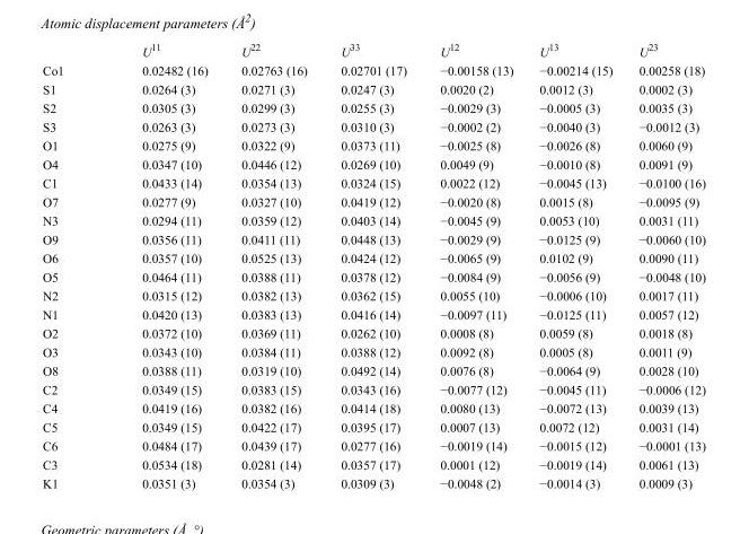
<table><thead><tr><td></td><td>U<sup>11</sup></td><td>U<sup>22</sup></td><td>U<sup>33</sup></td><td>U<sup>12</sup></td><td>U<sup>13</sup></td><td>U<sup>23</sup></td></tr></thead><tbody><tr><td>Co1</td><td>0.02482 (16)</td><td>0.02763 (16)</td><td>0.02701 (17)</td><td>−0.00158 (13)</td><td>−0.00214 (15)</td><td>0.00258 (18)</td></tr><tr><td>S1</td><td>0.0264 (3)</td><td>0.0271 (3)</td><td>0.0247 (3)</td><td>0.0020 (2)</td><td>0.0012 (3)</td><td>0.0002 (3)</td></tr><tr><td>S2</td><td>0.0305 (3)</td><td>0.0299 (3)</td><td>0.0255 (3)</td><td>−0.0029 (3)</td><td>−0.0005 (3)</td><td>0.0035 (3)</td></tr><tr><td>S3</td><td>0.0263 (3)</td><td>0.0273 (3)</td><td>0.0310 (3)</td><td>−0.0002 (2)</td><td>−0.0040 (3)</td><td>−0.0012 (3)</td></tr><tr><td>O1</td><td>0.0275 (9)</td><td>0.0322 (9)</td><td>0.0373 (11)</td><td>−0.0025 (8)</td><td>−0.0026 (8)</td><td>0.0060 (9)</td></tr><tr><td>O4</td><td>0.0347 (10)</td><td>0.0446 (12)</td><td>0.0269 (10)</td><td>0.0049 (9)</td><td>−0.0010 (8)</td><td>0.0091 (9)</td></tr><tr><td>C1</td><td>0.0433 (14)</td><td>0.0354 (13)</td><td>0.0324 (15)</td><td>0.0022 (12)</td><td>−0.0045 (13)</td><td>−0.0100 (16)</td></tr><tr><td>O7</td><td>0.0277 (9)</td><td>0.0327 (10)</td><td>0.0419 (12)</td><td>−0.0020 (8)</td><td>0.0015 (8)</td><td>−0.0095 (9)</td></tr><tr><td>N3</td><td>0.0294 (11)</td><td>0.0359 (12)</td><td>0.0403 (14)</td><td>−0.0045 (9)</td><td>0.0053 (10)</td><td>0.0031 (11)</td></tr><tr><td>O9</td><td>0.0356 (11)</td><td>0.0411 (11)</td><td>0.0448 (13)</td><td>−0.0029 (9)</td><td>−0.0125 (9)</td><td>−0.0060 (10)</td></tr><tr><td>O6</td><td>0.0357 (10)</td><td>0.0525 (13)</td><td>0.0424 (12)</td><td>−0.0065 (9)</td><td>0.0102 (9)</td><td>0.0090 (11)</td></tr><tr><td>O5</td><td>0.0464 (11)</td><td>0.0388 (11)</td><td>0.0378 (12)</td><td>−0.0084 (9)</td><td>−0.0056 (9)</td><td>−0.0048 (10)</td></tr><tr><td>N2</td><td>0.0315 (12)</td><td>0.0382 (13)</td><td>0.0362 (15)</td><td>0.0055 (10)</td><td>−0.0006 (10)</td><td>0.0017 (11)</td></tr><tr><td>N1</td><td>0.0420 (13)</td><td>0.0383 (13)</td><td>0.0416 (14)</td><td>−0.0097 (11)</td><td>−0.0125 (11)</td><td>0.0057 (12)</td></tr><tr><td>O2</td><td>0.0372 (10)</td><td>0.0369 (11)</td><td>0.0262 (10)</td><td>0.0008 (8)</td><td>0.0059 (8)</td><td>0.0018 (8)</td></tr><tr><td>O3</td><td>0.0343 (10)</td><td>0.0384 (11)</td><td>0.0388 (12)</td><td>0.0092 (8)</td><td>0.0005 (8)</td><td>0.0011 (9)</td></tr><tr><td>O8</td><td>0.0388 (11)</td><td>0.0319 (10)</td><td>0.0492 (14)</td><td>0.0076 (8)</td><td>−0.0064 (9)</td><td>0.0028 (10)</td></tr><tr><td>C2</td><td>0.0349 (15)</td><td>0.0383 (15)</td><td>0.0343 (16)</td><td>−0.0077 (12)</td><td>−0.0045 (11)</td><td>−0.0006 (12)</td></tr><tr><td>C4</td><td>0.0419 (16)</td><td>0.0382 (16)</td><td>0.0414 (18)</td><td>0.0080 (13)</td><td>−0.0072 (13)</td><td>0.0039 (13)</td></tr><tr><td>C5</td><td>0.0349 (15)</td><td>0.0422 (17)</td><td>0.0395 (17)</td><td>0.0007 (13)</td><td>0.0072 (12)</td><td>0.0031 (14)</td></tr><tr><td>C6</td><td>0.0484 (17)</td><td>0.0439 (17)</td><td>0.0277 (16)</td><td>−0.0019 (14)</td><td>−0.0015 (12)</td><td>−0.0001 (13)</td></tr><tr><td>C3</td><td>0.0534 (18)</td><td>0.0281 (14)</td><td>0.0357 (17)</td><td>0.0001 (12)</td><td>−0.0019 (14)</td><td>0.0061 (13)</td></tr><tr><td>K1</td><td>0.0351 (3)</td><td>0.0354 (3)</td><td>0.0309 (3)</td><td>−0.0048 (2)</td><td>−0.0014 (3)</td><td>0.0009 (3)</td></tr></tbody></table>